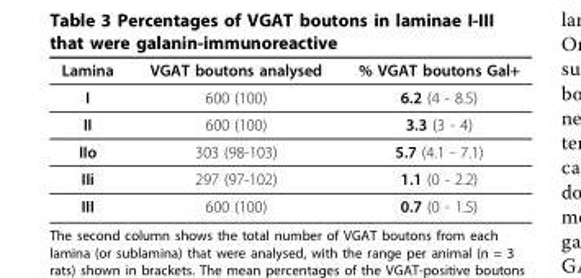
<table><thead><tr><td>Lamina</td><td>VGAT boutons analysed</td><td>% VGAT boutons Gal+</td></tr></thead><tbody><tr><td>I</td><td>600 (100)</td><td>6.2 (4 - 8.5)</td></tr><tr><td>II</td><td>600 (100)</td><td>3.3 (3 - 4)</td></tr><tr><td>IIo</td><td>303 (98-103)</td><td>5.7 (4.1 - 7.1)</td></tr><tr><td>IIi</td><td>297 (97-102)</td><td>1.1 (0 - 2.2)</td></tr><tr><td>III</td><td>600 (100)</td><td>0.7 (0 - 1.5)</td></tr></tbody></table>